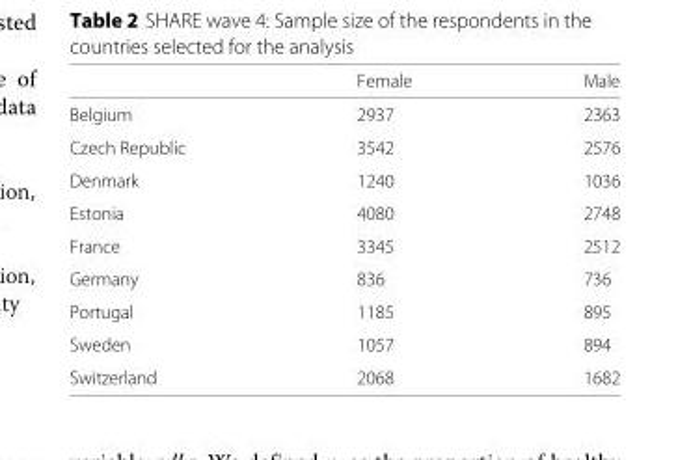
<table><thead><tr><td></td><td>Female</td><td>Male</td></tr></thead><tbody><tr><td>Belgium</td><td>2937</td><td>2363</td></tr><tr><td>Czech Republic</td><td>3542</td><td>2576</td></tr><tr><td>Denmark</td><td>1240</td><td>1036</td></tr><tr><td>Estonia</td><td>4080</td><td>2748</td></tr><tr><td>France</td><td>3345</td><td>2512</td></tr><tr><td>Germany</td><td>836</td><td>736</td></tr><tr><td>Portugal</td><td>1185</td><td>895</td></tr><tr><td>Sweden</td><td>1057</td><td>894</td></tr><tr><td>Switzerland</td><td>2068</td><td>1682</td></tr></tbody></table>